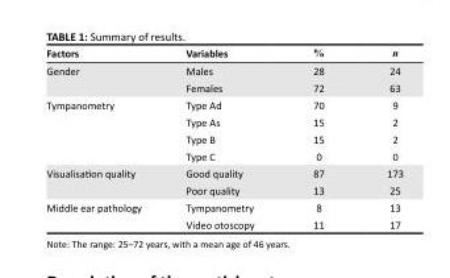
<table><thead><tr><td>Factors</td><td>Variables</td><td>%</td><td>n</td></tr></thead><tbody><tr><td rowspan="2">Gender</td><td>Males</td><td>28</td><td>24</td></tr><tr><td>Females</td><td>72</td><td>63</td></tr><tr><td rowspan="4">Tympanometry</td><td>Type Ad</td><td>70</td><td>9</td></tr><tr><td>Type As</td><td>15</td><td>2</td></tr><tr><td>Type B</td><td>15</td><td>2</td></tr><tr><td>Type C</td><td>0</td><td>0</td></tr><tr><td rowspan="2">Visualisation quality</td><td>Good quality</td><td>87</td><td>173</td></tr><tr><td>Poor quality</td><td>13</td><td>25</td></tr><tr><td rowspan="2">Middle ear pathology</td><td>Tympanometry</td><td>8</td><td>13</td></tr><tr><td>Video otoscopy</td><td>11</td><td>17</td></tr></tbody></table>